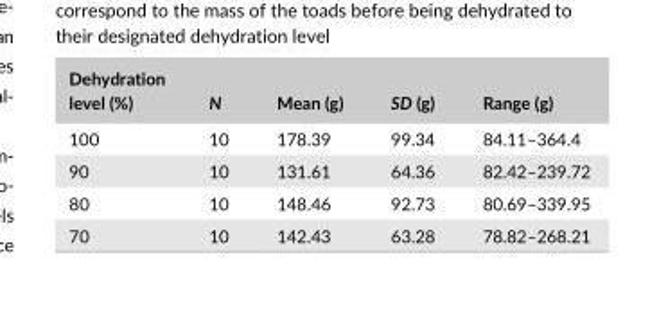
<table><thead><tr><td>Dehydration level (%)</td><td>N</td><td>Mean (g)</td><td>SD (g)</td><td>Range (g)</td></tr></thead><tbody><tr><td>100</td><td>10</td><td>178.39</td><td>99.34</td><td>84.11–364.4</td></tr><tr><td>90</td><td>10</td><td>131.61</td><td>64.36</td><td>82.42–239.72</td></tr><tr><td>80</td><td>10</td><td>148.46</td><td>92.73</td><td>80.69–339.95</td></tr><tr><td>70</td><td>10</td><td>142.43</td><td>63.28</td><td>78.82–268.21</td></tr></tbody></table>